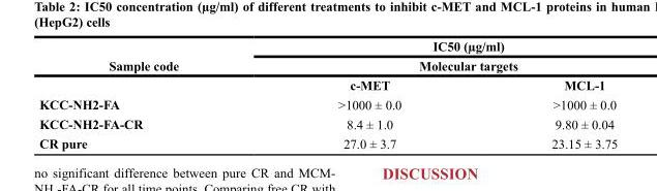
<table><thead><tr><td rowspan="3">Sample code</td><td rowspan="2" colspan="2">IC50 (µg/ml) Molecular targets</td></tr><tr></tr><tr><td>c-MET</td><td>MCL-1</td></tr></thead><tbody><tr><td>KCC-NH2-FA</td><td>&gt;1000 ± 0.0</td><td>&gt;1000 ± 0.0</td></tr><tr><td>KCC-NH2-FA-CR</td><td>8.4 ± 1.0</td><td>9.80 ± 0.04</td></tr><tr><td>CR pure</td><td>27.0 ± 3.7</td><td>23.15 ± 3.75</td></tr></tbody></table>